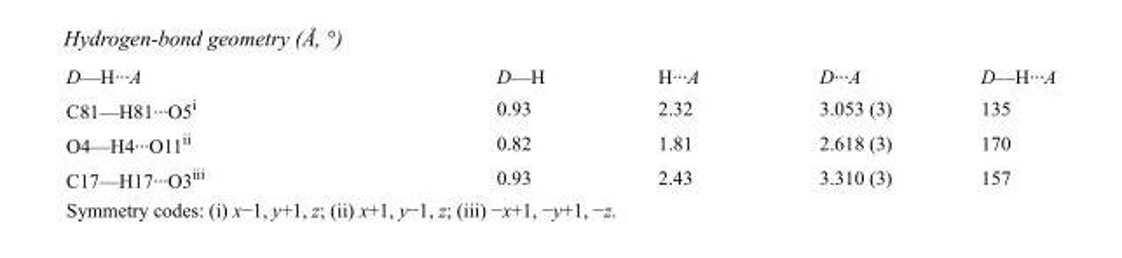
<table><tbody><tr><td>D—H···A</td><td>D—H</td><td>H···A</td><td>D···A</td><td>D—H···A</td></tr><tr><td>C81—H81···O5<sup>i</sup></td><td>0.93</td><td>2.32</td><td>3.053 (3)</td><td>135</td></tr><tr><td>O4—H4···O11<sup>ii</sup></td><td>0.82</td><td>1.81</td><td>2.618 (3)</td><td>170</td></tr><tr><td>C17—H17···O3<sup>iii</sup></td><td>0.93</td><td>2.43</td><td>3.310 (3)</td><td>157</td></tr></tbody></table>